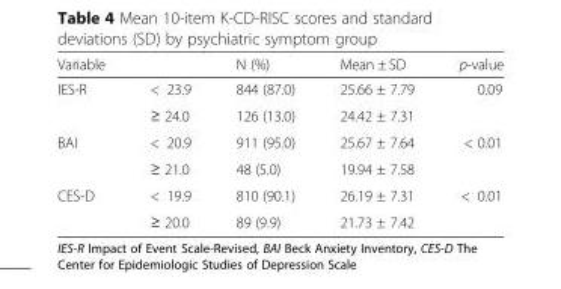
<table><thead><tr><td>Variable</td><td></td><td>N (%)</td><td>Mean ± SD</td><td>p-value</td></tr></thead><tbody><tr><td rowspan="2">IES-R</td><td>&lt; 23.9</td><td>844 (87.0)</td><td>25.66 ± 7.79</td><td>0.09</td></tr><tr><td>≥ 24.0</td><td>126 (13.0)</td><td>24.42 ± 7.31</td><td></td></tr><tr><td rowspan="2">BAI</td><td>&lt; 20.9</td><td>911 (95.0)</td><td>25.67 ± 7.64</td><td>&lt; 0.01</td></tr><tr><td>≥ 21.0</td><td>48 (5.0)</td><td>19.94 ± 7.58</td><td></td></tr><tr><td rowspan="2">CES-D</td><td>&lt; 19.9</td><td>810 (90.1)</td><td>26.19 ± 7.31</td><td>&lt; 0.01</td></tr><tr><td>≥ 20.0</td><td>89 (9.9)</td><td>21.73 ± 7.42</td><td></td></tr></tbody></table>